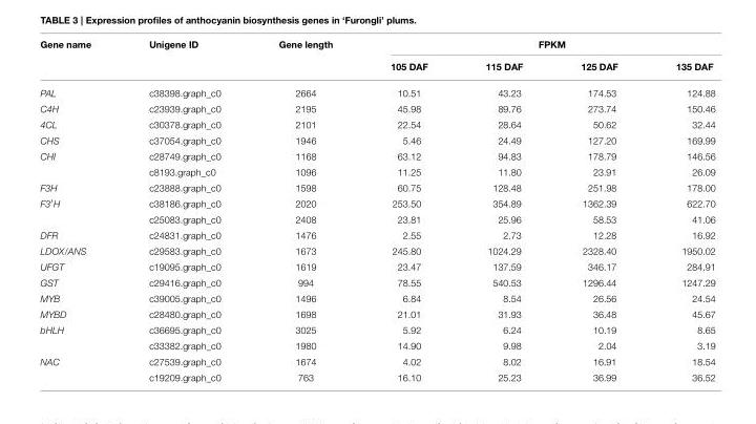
<table><thead><tr><td rowspan="2">Gene name</td><td rowspan="2">Unigene ID</td><td rowspan="2">Gene length</td><td colspan="4">FPKM</td></tr><tr><td>105 DAF</td><td>115 DAF</td><td>125 DAF</td><td>135 DAF</td></tr></thead><tbody><tr><td>PAL</td><td>c38398.graph_c0</td><td>2664</td><td>10.51</td><td>43.23</td><td>174.53</td><td>124.88</td></tr><tr><td>C4H</td><td>c23939.graph_c0</td><td>2195</td><td>45.98</td><td>89.76</td><td>273.74</td><td>150.46</td></tr><tr><td>4CL</td><td>c30378.graph_c0</td><td>2101</td><td>22.54</td><td>28.64</td><td>50.62</td><td>32.44</td></tr><tr><td>CHS</td><td>c37054.graph_c0</td><td>1946</td><td>5.46</td><td>24.49</td><td>127.20</td><td>169.99</td></tr><tr><td rowspan="2">CHI</td><td>c28749.graph_c0</td><td>1168</td><td>63.12</td><td>94.83</td><td>178.79</td><td>146.56</td></tr><tr><td>c8193.graph_c0</td><td>1096</td><td>11.25</td><td>11.80</td><td>23.91</td><td>26.09</td></tr><tr><td>F3H</td><td>c23888.graph_c0</td><td>1598</td><td>60.75</td><td>128.48</td><td>251.98</td><td>178.00</td></tr><tr><td rowspan="2">F3′H</td><td>c38186.graph_c0</td><td>2020</td><td>253.50</td><td>354.89</td><td>1362.39</td><td>622.70</td></tr><tr><td>c25083.graph_c0</td><td>2408</td><td>23.81</td><td>25.96</td><td>58.53</td><td>41.06</td></tr><tr><td>DFR</td><td>c24831.graph_c0</td><td>1476</td><td>2.55</td><td>2.73</td><td>12.28</td><td>16.92</td></tr><tr><td>LDOX/ANS</td><td>c29583.graph_c0</td><td>1673</td><td>245.80</td><td>1024.29</td><td>2328.40</td><td>1950.02</td></tr><tr><td>UFGT</td><td>c19095.graph_c0</td><td>1619</td><td>23.47</td><td>137.59</td><td>346.17</td><td>284.91</td></tr><tr><td>GST</td><td>c29416.graph_c0</td><td>994</td><td>78.55</td><td>540.53</td><td>1296.44</td><td>1247.29</td></tr><tr><td>MYB</td><td>c39005.graph_c0</td><td>1496</td><td>6.84</td><td>8.54</td><td>26.56</td><td>24.54</td></tr><tr><td>MYBD</td><td>c28480.graph_c0</td><td>1698</td><td>21.01</td><td>31.93</td><td>36.48</td><td>45.67</td></tr><tr><td rowspan="2">bHLH</td><td>c36695.graph_c0</td><td>3025</td><td>5.92</td><td>6.24</td><td>10.19</td><td>8.65</td></tr><tr><td>c33382.graph_c0</td><td>1980</td><td>14.90</td><td>9.98</td><td>2.04</td><td>3.19</td></tr><tr><td rowspan="2">NAC</td><td>c27539.graph_c0</td><td>1674</td><td>4.02</td><td>8.02</td><td>16.91</td><td>18.54</td></tr><tr><td>c19209.graph_c0</td><td>763</td><td>16.10</td><td>25.23</td><td>36.99</td><td>36.52</td></tr></tbody></table>